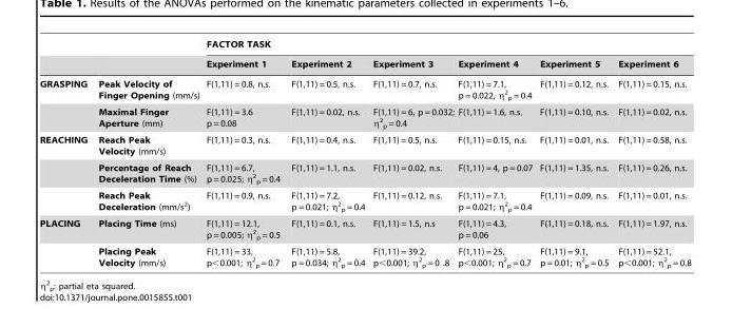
<table><thead><tr><td rowspan="2"></td><td rowspan="2"></td><td colspan="6">FACTOR TASK</td></tr><tr><td>Experiment 1</td><td>Experiment 2</td><td>Experiment 3</td><td>Experiment 4</td><td>Experiment 5</td><td>Experiment 6</td></tr></thead><tbody><tr><td rowspan="2">GRASPING</td><td>Peak Velocity of Finger Opening (mm/s)</td><td>F(1,11) = 0.8, n.s.</td><td>F(1,11) = 0.5, n.s.</td><td>F(1,11) = 0.7, n.s.</td><td>F(1,11) = 7.1, p = 0.022, η<sup>2</sup> <sub>p</sub> = 0.4</td><td>F(1,11) = 0.12, n.s.</td><td>F(1,11) = 0.15, n.s.</td></tr><tr><td>Maximal Finger Aperture (mm)</td><td>F(1,11) = 3.6 p = 0.08</td><td>F(1,11) = 0.02, n.s.</td><td>F(1,11) = 6, p = 0.032; η<sup>2</sup> <sub>p</sub> = 0.4</td><td>F(1,11) = 1.6, n.s.</td><td>F(1,11) = 0.10, n.s.</td><td>F(1,11) = 0.02, n.s.</td></tr><tr><td rowspan="3">REACHING</td><td>Reach Peak Velocity (mm/s)</td><td>F(1,11) = 0.3, n.s.</td><td>F(1,11) = 0.4, n.s.</td><td>F(1,11) = 0.5, n.s.</td><td>F(1,11) = 0.15, n.s.</td><td>F(1,11) = 0.01, n.s.</td><td>F(1,11) = 0.58, n.s.</td></tr><tr><td>Percentage of Reach Deceleration Time (%)</td><td>F(1,11) = 6.7, p = 0.025; η<sup>2</sup> <sub>p</sub> = 0.4</td><td>F(1,11) = 1.1, n.s.</td><td>F(1,11) = 0.02, n.s.</td><td>F(1,11) = 4, p = 0.07</td><td>F(1,11) = 1.35, n.s.</td><td>F(1,11) = 0.26, n.s.</td></tr><tr><td>Reach Peak Deceleration (mm/s<sup>2</sup>)</td><td>F(1,11) = 0.9, n.s.</td><td>F(1,11) = 7.2, p = 0.021; η<sup>2</sup> <sub>p</sub> = 0.4</td><td>F(1,11) = 0.12, n.s.</td><td>F(1,11) = 7.1, p = 0.021; η<sup>2</sup> <sub>p</sub> = 0.4</td><td>F(1,11) = 0.09, n.s.</td><td>F(1,11) = 0.01, n.s.</td></tr><tr><td rowspan="2">PLACING</td><td>Placing Time (ms)</td><td>F(1,11) = 12.1, p = 0.005; η<sup>2</sup> <sub>p</sub> = 0.5</td><td>F(1,11) = 0.1, n.s.</td><td>F(1,11) = 1.5, n.s</td><td>F(1,11) = 4.3, p = 0.06</td><td>F(1,11) = 0.18, n.s.</td><td>F(1,11) = 1.97, n.s.</td></tr><tr><td>Placing Peak Velocity (mm/s)</td><td>F(1,11) = 33, p&lt;0.001; η<sup>2</sup> <sub>p</sub> = 0.7</td><td>F(1,11) = 5.8, p = 0.034; η<sup>2</sup> <sub>p</sub> = 0.4</td><td>F(1,11) = 39.2, p&lt;0.001; η<sup>2</sup> <sub>p</sub> = 0 .8</td><td>F(1,11) = 25, p&lt;0.001; η<sup>2</sup> <sub>p</sub> = 0.7</td><td>F(1,11) = 9.1, p = 0.01; η<sup>2</sup> <sub>p</sub> = 0.5</td><td>F(1,11) = 52.1, p&lt;0.001; η<sup>2</sup> <sub>p</sub> = 0.8</td></tr></tbody></table>